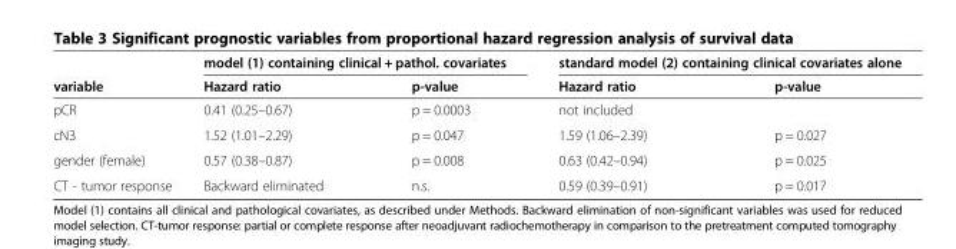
<table><thead><tr><td rowspan="2">variable</td><td colspan="2">model (1) containing clinical + pathol. covariates</td><td colspan="2">standard model (2) containing clinical covariates alone</td></tr><tr><td>Hazard ratio</td><td>p-value</td><td>Hazard ratio</td><td>p-value</td></tr></thead><tbody><tr><td>pCR</td><td>0.41 (0.25–0.67)</td><td>p = 0.0003</td><td>not included</td><td></td></tr><tr><td>cN3</td><td>1.52 (1.01–2.29)</td><td>p = 0.047</td><td>1.59 (1.06–2.39)</td><td>p = 0.027</td></tr><tr><td>gender (female)</td><td>0.57 (0.38–0.87)</td><td>p = 0.008</td><td>0.63 (0.42–0.94)</td><td>p = 0.025</td></tr><tr><td>CT - tumor response</td><td>Backward eliminated</td><td>n.s.</td><td>0.59 (0.39–0.91)</td><td>p = 0.017</td></tr></tbody></table>